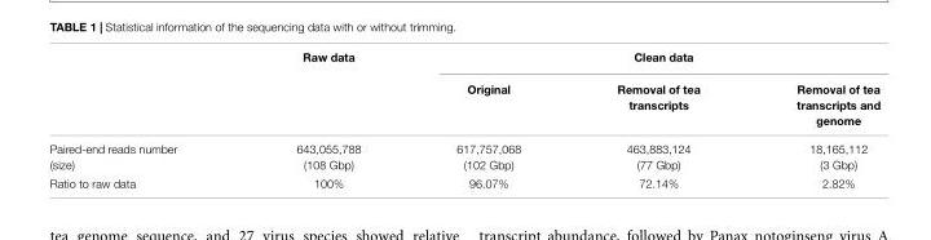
<table><thead><tr><td rowspan="2"></td><td rowspan="2">Raw data</td><td colspan="3">Clean data</td></tr><tr><td>Original</td><td>Removal of tea transcripts</td><td>Removal of tea transcripts and genome</td></tr></thead><tbody><tr><td>Paired-end reads number (size)</td><td>643,055,788 (108 Gbp)</td><td>617,757,068 (102 Gbp)</td><td>463,883,124 (77 Gbp)</td><td>18,165,112 (3 Gbp)</td></tr><tr><td>Ratio to raw data</td><td>100%</td><td>96.07%</td><td>72.14%</td><td>2.82%</td></tr></tbody></table>